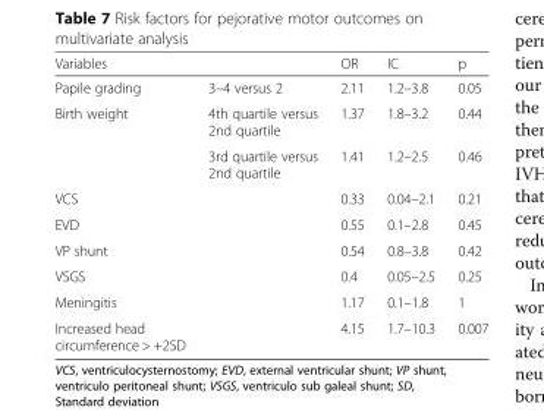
<table><thead><tr><td colspan="2">Variables</td><td rowspan="2">OR 2.11</td><td rowspan="2">IC 1.2–3.8</td><td rowspan="2">p 0.05</td></tr><tr><td>Papile grading</td><td>3–4 versus 2</td></tr></thead><tbody><tr><td rowspan="2">Birth weight</td><td>4th quartile versus 2nd quartile</td><td>1.37</td><td>1.8–3.2</td><td>0.44</td></tr><tr><td>3rd quartile versus 2nd quartile</td><td>1.41</td><td>1.2–2.5</td><td>0.46</td></tr><tr><td>VCS</td><td></td><td>0.33</td><td>0.04–2.1</td><td>0.21</td></tr><tr><td>EVD</td><td></td><td>0.55</td><td>0.1–2.8</td><td>0.45</td></tr><tr><td>VP shunt</td><td></td><td>0.54</td><td>0.8–3.8</td><td>0.42</td></tr><tr><td>VSGS</td><td></td><td>0.4</td><td>0.05–2.5</td><td>0.25</td></tr><tr><td>Meningitis</td><td></td><td>1.17</td><td>0.1–1.8</td><td>1</td></tr><tr><td>Increased head circumference &gt; +2SD</td><td></td><td>4.15</td><td>1.7–10.3</td><td>0.007</td></tr></tbody></table>